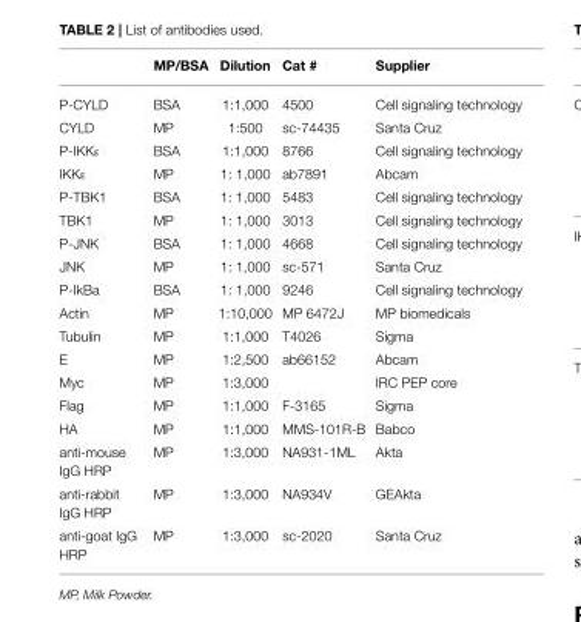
<table><thead><tr><td></td><td>MP/BSA</td><td>Dilution</td><td>Cat #</td><td>Supplier</td></tr></thead><tbody><tr><td>P-CYLD</td><td>BSA</td><td>1:1,000</td><td>4500</td><td>Cell signaling technology</td></tr><tr><td>CYLD</td><td>MP</td><td>1:500</td><td>sc-74435</td><td>Santa Cruz</td></tr><tr><td>P-IKKε</td><td>BSA</td><td>1:1,000</td><td>8766</td><td>Cell signaling technology</td></tr><tr><td>IKKε</td><td>MP</td><td>1: 1,000</td><td>ab7891</td><td>Abcam</td></tr><tr><td>P-TBK1</td><td>BSA</td><td>1: 1,000</td><td>5483</td><td>Cell signaling technology</td></tr><tr><td>TBK1</td><td>MP</td><td>1: 1,000</td><td>3013</td><td>Cell signaling technology</td></tr><tr><td>P-JNK</td><td>BSA</td><td>1: 1,000</td><td>4668</td><td>Cell signaling technology</td></tr><tr><td>JNK</td><td>MP</td><td>1: 1,000</td><td>sc-571</td><td>Santa Cruz</td></tr><tr><td>P-IkBa</td><td>BSA</td><td>1: 1,000</td><td>9246</td><td>Cell signaling technology</td></tr><tr><td>Actin</td><td>MP</td><td>1:10,000</td><td>MP 6472J</td><td>MP biomedicals</td></tr><tr><td>Tubulin</td><td>MP</td><td>1:1,000</td><td>T4026</td><td>Sigma</td></tr><tr><td>E</td><td>MP</td><td>1:2,500</td><td>ab66152</td><td>Abcam</td></tr><tr><td>Myc</td><td>MP</td><td>1:3,000</td><td></td><td>IRC PEP core</td></tr><tr><td>Flag</td><td>MP</td><td>1:1,000</td><td>F-3165</td><td>Sigma</td></tr><tr><td>HA</td><td>MP</td><td>1:1,000</td><td>MMS-101R-B</td><td>Babco</td></tr><tr><td>anti-mouse IgG HRP</td><td>MP</td><td>1:3,000</td><td>NA931-1ML</td><td>Akta</td></tr><tr><td>anti-rabbit IgG HRP</td><td>MP</td><td>1:3,000</td><td>NA934V</td><td>GEAkta</td></tr><tr><td>anti-goat IgG HRP</td><td>MP</td><td>1:3,000</td><td>sc-2020</td><td>Santa Cruz</td></tr></tbody></table>